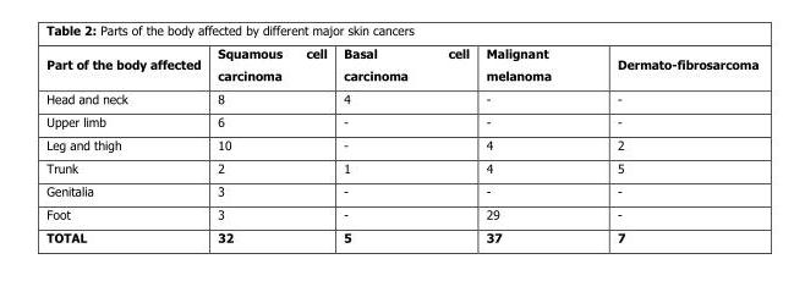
<table><thead><tr><td>Part of the body affected</td><td>Squamous cell carcinoma</td><td>Basal cell carcinoma</td><td>Malignant melanoma</td><td>Dermato-fibrosarcoma</td></tr></thead><tbody><tr><td>Head and neck</td><td>8</td><td>4</td><td>-</td><td>-</td></tr><tr><td>Upper limb</td><td>6</td><td>-</td><td>-</td><td>-</td></tr><tr><td>Leg and thigh</td><td>10</td><td>-</td><td>4</td><td>2</td></tr><tr><td>Trunk</td><td>2</td><td>1</td><td>4</td><td>5</td></tr><tr><td>Genitalia</td><td>3</td><td>-</td><td>-</td><td>-</td></tr><tr><td>Foot</td><td>3</td><td>-</td><td>29</td><td>-</td></tr><tr><td>TOTAL</td><td>32</td><td>5</td><td>37</td><td>7</td></tr></tbody></table>